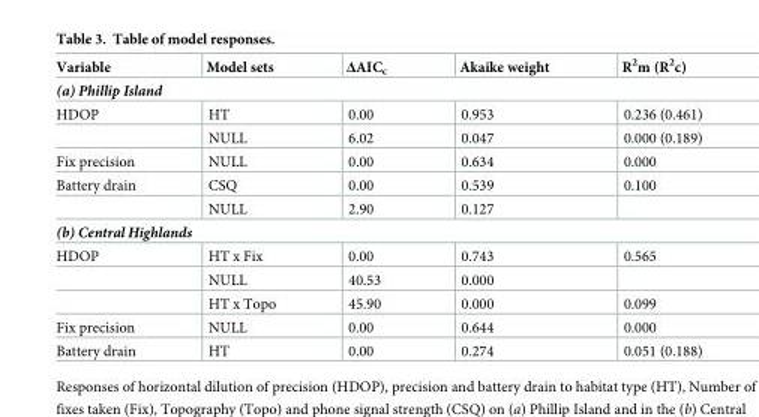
<table><thead><tr><td>Variable</td><td>Model sets</td><td>ΔAIC<sub>c</sub></td><td>Akaike weight</td><td>R<sup>2</sup>m (R<sup>2</sup>c)</td></tr></thead><tbody><tr><td colspan="5">(a) Phillip Island</td></tr><tr><td rowspan="2">HDOP</td><td>HT</td><td>0.00</td><td>0.953</td><td>0.236 (0.461)</td></tr><tr><td>NULL</td><td>6.02</td><td>0.047</td><td>0.000 (0.189)</td></tr><tr><td>Fix precision</td><td>NULL</td><td>0.00</td><td>0.634</td><td>0.000</td></tr><tr><td rowspan="2">Battery drain</td><td>CSQ</td><td>0.00</td><td>0.539</td><td>0.100</td></tr><tr><td>NULL</td><td>2.90</td><td>0.127</td><td></td></tr><tr><td colspan="5">(b) Central Highlands</td></tr><tr><td rowspan="3">HDOP</td><td>HT x Fix</td><td>0.00</td><td>0.743</td><td>0.565</td></tr><tr><td>NULL</td><td>40.53</td><td>0.000</td><td></td></tr><tr><td>HT x Topo</td><td>45.90</td><td>0.000</td><td>0.099</td></tr><tr><td>Fix precision</td><td>NULL</td><td>0.00</td><td>0.644</td><td>0.000</td></tr><tr><td>Battery drain</td><td>HT</td><td>0.00</td><td>0.274</td><td>0.051 (0.188)</td></tr></tbody></table>